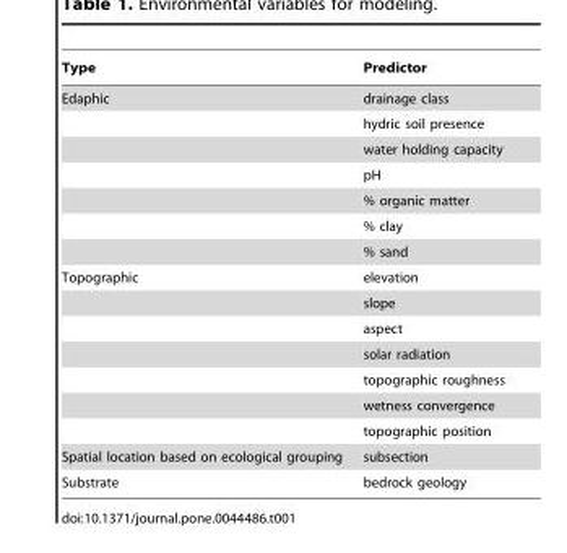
<table><thead><tr><td>Type</td><td>Predictor</td></tr></thead><tbody><tr><td rowspan="7">Edaphic</td><td>drainage class</td></tr><tr><td>hydric soil presence</td></tr><tr><td>water holding capacity</td></tr><tr><td>pH</td></tr><tr><td>% organic matter</td></tr><tr><td>% clay</td></tr><tr><td>% sand</td></tr><tr><td rowspan="7">Topographic</td><td>elevation</td></tr><tr><td>slope</td></tr><tr><td>aspect</td></tr><tr><td>solar radiation</td></tr><tr><td>topographic roughness</td></tr><tr><td>wetness convergence</td></tr><tr><td>topographic position</td></tr><tr><td>Spatial location based on ecological grouping</td><td>subsection</td></tr><tr><td>Substrate</td><td>bedrock geology</td></tr></tbody></table>